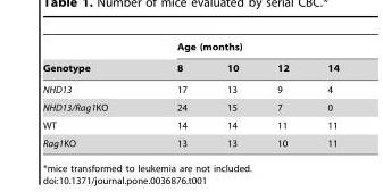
<table><thead><tr><td rowspan="2">Genotype</td><td colspan="4">Age (months)</td></tr><tr><td>8</td><td>10</td><td>12</td><td>14</td></tr></thead><tbody><tr><td>NHD13</td><td>17</td><td>13</td><td>9</td><td>4</td></tr><tr><td>NHD13/Rag1KO</td><td>24</td><td>15</td><td>7</td><td>0</td></tr><tr><td>WT</td><td>14</td><td>14</td><td>11</td><td>11</td></tr><tr><td>Rag1KO</td><td>13</td><td>13</td><td>10</td><td>11</td></tr></tbody></table>